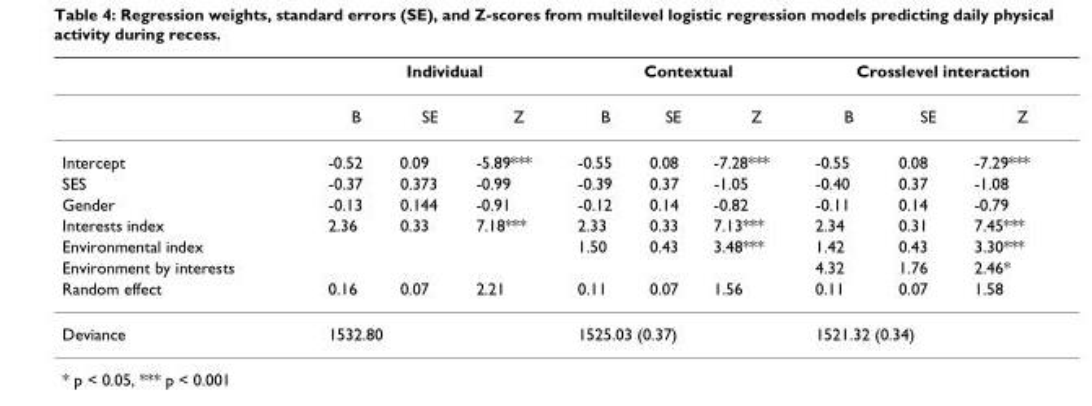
<table><thead><tr><td rowspan="2"></td><td colspan="3">Individual</td><td colspan="3">Contextual</td><td colspan="3">Crosslevel interaction</td></tr><tr><td>B</td><td>SE</td><td>Z</td><td>B</td><td>SE</td><td>Z</td><td>B</td><td>SE</td><td>Z</td></tr></thead><tbody><tr><td>Intercept</td><td>-0.52</td><td>0.09</td><td>-5.89***</td><td>-0.55</td><td>0.08</td><td>-7.28***</td><td>-0.55</td><td>0.08</td><td>-7.29***</td></tr><tr><td>SES</td><td>-0.37</td><td>0.373</td><td>-0.99</td><td>-0.39</td><td>0.37</td><td>-1.05</td><td>-0.40</td><td>0.37</td><td>-1.08</td></tr><tr><td>Gender</td><td>-0.13</td><td>0.144</td><td>-0.91</td><td>-0.12</td><td>0.14</td><td>-0.82</td><td>-0.11</td><td>0.14</td><td>-0.79</td></tr><tr><td>Interests index</td><td>2.36</td><td>0.33</td><td>7.18***</td><td>2.33</td><td>0.33</td><td>7.13***</td><td>2.34</td><td>0.31</td><td>7.45***</td></tr><tr><td>Environmental index</td><td></td><td></td><td></td><td>1.50</td><td>0.43</td><td>3.48***</td><td>1.42</td><td>0.43</td><td>3.30***</td></tr><tr><td>Environment by interests</td><td></td><td></td><td></td><td></td><td></td><td></td><td>4.32</td><td>1.76</td><td>2.46*</td></tr><tr><td>Random effect</td><td>0.16</td><td>0.07</td><td>2.21</td><td>0.11</td><td>0.07</td><td>1.56</td><td>0.11</td><td>0.07</td><td>1.58</td></tr><tr><td>Deviance</td><td colspan="3">1532.80</td><td colspan="3">1525.03 (0.37)</td><td colspan="3">1521.32 (0.34)</td></tr></tbody></table>